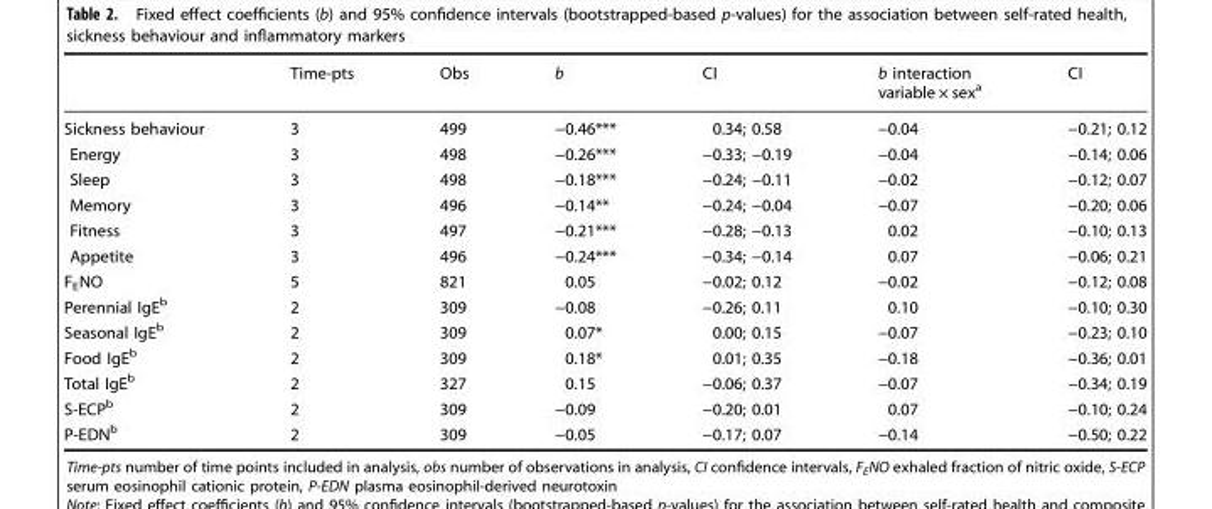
<table><thead><tr><td></td><td>Time-pts</td><td>Obs</td><td>b</td><td>CI</td><td>b interaction variable × sex<sup>a</sup></td><td>CI</td></tr></thead><tbody><tr><td>Sickness behaviour</td><td>3</td><td>499</td><td>−0.46***</td><td>0.34; 0.58</td><td>−0.04</td><td>−0.21; 0.12</td></tr><tr><td>Energy</td><td>3</td><td>498</td><td>−0.26***</td><td>−0.33; −0.19</td><td>−0.04</td><td>−0.14; 0.06</td></tr><tr><td>Sleep</td><td>3</td><td>498</td><td>−0.18***</td><td>−0.24; −0.11</td><td>−0.02</td><td>−0.12; 0.07</td></tr><tr><td>Memory</td><td>3</td><td>496</td><td>−0.14**</td><td>−0.24; −0.04</td><td>−0.07</td><td>−0.20; 0.06</td></tr><tr><td>Fitness</td><td>3</td><td>497</td><td>−0.21***</td><td>−0.28; −0.13</td><td>0.02</td><td>−0.10; 0.13</td></tr><tr><td>Appetite</td><td>3</td><td>496</td><td>−0.24***</td><td>−0.34; −0.14</td><td>0.07</td><td>−0.06; 0.21</td></tr><tr><td>F<sub>E</sub>NO</td><td>5</td><td>821</td><td>0.05</td><td>−0.02; 0.12</td><td>−0.02</td><td>−0.12; 0.08</td></tr><tr><td>Perennial IgE<sup>b</sup></td><td>2</td><td>309</td><td>−0.08</td><td>−0.26; 0.11</td><td>0.10</td><td>−0.10; 0.30</td></tr><tr><td>Seasonal IgE<sup>b</sup></td><td>2</td><td>309</td><td>0.07*</td><td>0.00; 0.15</td><td>−0.07</td><td>−0.23; 0.10</td></tr><tr><td>Food IgE<sup>b</sup></td><td>2</td><td>309</td><td>0.18*</td><td>0.01; 0.35</td><td>−0.18</td><td>−0.36; 0.01</td></tr><tr><td>Total IgE<sup>b</sup></td><td>2</td><td>327</td><td>0.15</td><td>−0.06; 0.37</td><td>−0.07</td><td>−0.34; 0.19</td></tr><tr><td>S-ECP<sup>b</sup></td><td>2</td><td>309</td><td>−0.09</td><td>−0.20; 0.01</td><td>0.07</td><td>−0.10; 0.24</td></tr><tr><td>P-EDN<sup>b</sup></td><td>2</td><td>309</td><td>−0.05</td><td>−0.17; 0.07</td><td>−0.14</td><td>−0.50; 0.22</td></tr></tbody></table>